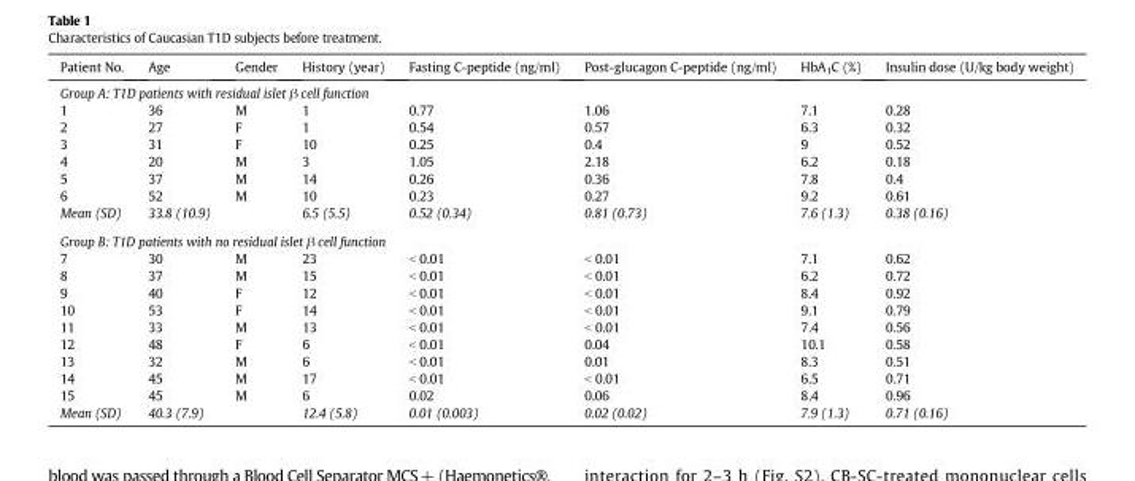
<table><thead><tr><td>Patient No.</td><td>Age</td><td>Gender</td><td>History (year)</td><td>Fasting C-peptide (ng/ml)</td><td>Post-glucagon C-peptide (ng/ml)</td><td>HbA<sub>1</sub>C (%)</td><td>Insulin dose (U/kg body weight)</td></tr></thead><tbody><tr><td colspan="8">Group A: T1D patients with residual islet β cell function</td></tr><tr><td>1</td><td>36</td><td>M</td><td>1</td><td>0.77</td><td>1.06</td><td>7.1</td><td>0.28</td></tr><tr><td>2</td><td>27</td><td>F</td><td>1</td><td>0.54</td><td>0.57</td><td>6.3</td><td>0.32</td></tr><tr><td>3</td><td>31</td><td>F</td><td>10</td><td>0.25</td><td>0.4</td><td>9</td><td>0.52</td></tr><tr><td>4</td><td>20</td><td>M</td><td>3</td><td>1.05</td><td>2.18</td><td>6.2</td><td>0.18</td></tr><tr><td>5</td><td>37</td><td>M</td><td>14</td><td>0.26</td><td>0.36</td><td>7.8</td><td>0.4</td></tr><tr><td>6</td><td>52</td><td>M</td><td>10</td><td>0.23</td><td>0.27</td><td>9.2</td><td>0.61</td></tr><tr><td>Mean (SD)</td><td>33.8 (10.9)</td><td></td><td>6.5 (5.5)</td><td>0.52 (0.34)</td><td>0.81 (0.73)</td><td>7.6 (1.3)</td><td>0.38 (0.16)</td></tr><tr><td colspan="8">Group B: T1D patients with no residual islet β cell function</td></tr><tr><td>7</td><td>30</td><td>M</td><td>23</td><td>&lt; 0.01</td><td>&lt; 0.01</td><td>7.1</td><td>0.62</td></tr><tr><td>8</td><td>37</td><td>M</td><td>15</td><td>&lt; 0.01</td><td>&lt; 0.01</td><td>6.2</td><td>0.72</td></tr><tr><td>9</td><td>40</td><td>F</td><td>12</td><td>&lt; 0.01</td><td>&lt; 0.01</td><td>8.4</td><td>0.92</td></tr><tr><td>10</td><td>53</td><td>F</td><td>14</td><td>&lt; 0.01</td><td>&lt; 0.01</td><td>9.1</td><td>0.79</td></tr><tr><td>11</td><td>33</td><td>M</td><td>13</td><td>&lt; 0.01</td><td>&lt; 0.01</td><td>7.4</td><td>0.56</td></tr><tr><td>12</td><td>48</td><td>F</td><td>6</td><td>&lt; 0.01</td><td>0.04</td><td>10.1</td><td>0.58</td></tr><tr><td>13</td><td>32</td><td>M</td><td>6</td><td>&lt; 0.01</td><td>0.01</td><td>8.3</td><td>0.51</td></tr><tr><td>14</td><td>45</td><td>M</td><td>17</td><td>&lt; 0.01</td><td>&lt; 0.01</td><td>6.5</td><td>0.71</td></tr><tr><td>15</td><td>45</td><td>M</td><td>6</td><td>0.02</td><td>0.06</td><td>8.4</td><td>0.96</td></tr><tr><td>Mean (SD)</td><td>40.3 (7.9)</td><td></td><td>12.4 (5.8)</td><td>0.01 (0.003)</td><td>0.02 (0.02)</td><td>7.9 (1.3)</td><td>0.71 (0.16)</td></tr></tbody></table>